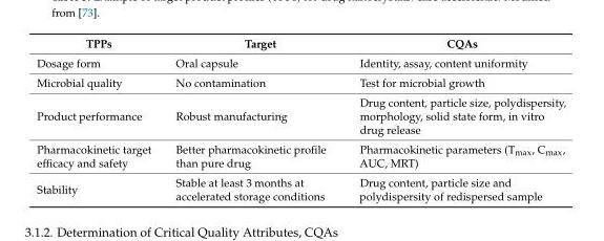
<table><thead><tr><td>TPPs</td><td>Target</td><td>CQAs</td></tr></thead><tbody><tr><td>Dosage form</td><td>Oral capsule</td><td>Identity, assay, content uniformity</td></tr><tr><td>Microbial quality</td><td>No contamination</td><td>Test for microbial growth</td></tr><tr><td>Product performance</td><td>Robust manufacturing</td><td>Drug content, particle size, polydispersity, morphology, solid state form, in vitro drug release</td></tr><tr><td>Pharmacokinetic target efficacy and safety</td><td>Better pharmacokinetic profile than pure drug</td><td>Pharmacokinetic parameters (T<sub>max</sub>, C<sub>max</sub>, AUC, MRT)</td></tr><tr><td>Stability</td><td>Stable at least 3 months at accelerated storage conditions</td><td>Drug content, particle size and polydispersity of redispersed sample</td></tr></tbody></table>